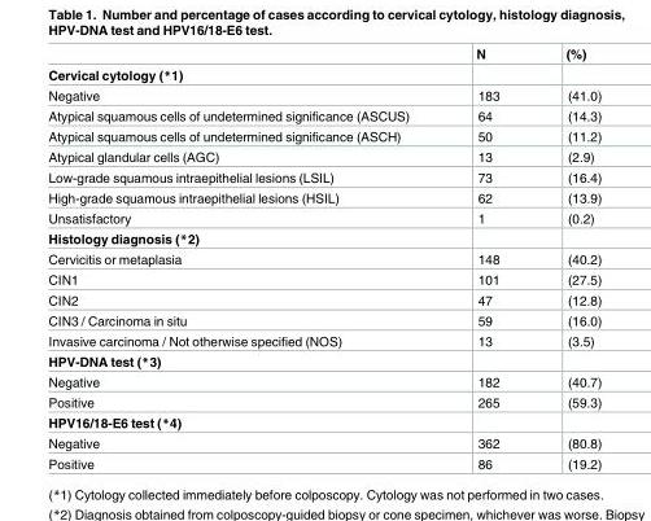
<table><thead><tr><td></td><td>N</td><td>(%)</td></tr></thead><tbody><tr><td colspan="3">Cervical cytology (*1)</td></tr><tr><td>Negative</td><td>183</td><td>(41.0)</td></tr><tr><td>Atypical squamous cells of undetermined significance (ASCUS)</td><td>64</td><td>(14.3)</td></tr><tr><td>Atypical squamous cells of undetermined significance (ASCH)</td><td>50</td><td>(11.2)</td></tr><tr><td>Atypical glandular cells (AGC)</td><td>13</td><td>(2.9)</td></tr><tr><td>Low-grade squamous intraepithelial lesions (LSIL)</td><td>73</td><td>(16.4)</td></tr><tr><td>High-grade squamous intraepithelial lesions (HSIL)</td><td>62</td><td>(13.9)</td></tr><tr><td>Unsatisfactory</td><td>1</td><td>(0.2)</td></tr><tr><td colspan="3">Histology diagnosis (*2)</td></tr><tr><td>Cervicitis or metaplasia</td><td>148</td><td>(40.2)</td></tr><tr><td>CIN1</td><td>101</td><td>(27.5)</td></tr><tr><td>CIN2</td><td>47</td><td>(12.8)</td></tr><tr><td>CIN3 / Carcinoma in situ</td><td>59</td><td>(16.0)</td></tr><tr><td>Invasive carcinoma / Not otherwise specified (NOS)</td><td>13</td><td>(3.5)</td></tr><tr><td colspan="3">HPV-DNA test (*3)</td></tr><tr><td>Negative</td><td>182</td><td>(40.7)</td></tr><tr><td>Positive</td><td>265</td><td>(59.3)</td></tr><tr><td colspan="3">HPV16/18-E6 test (*4)</td></tr><tr><td>Negative</td><td>362</td><td>(80.8)</td></tr><tr><td>Positive</td><td>86</td><td>(19.2)</td></tr></tbody></table>